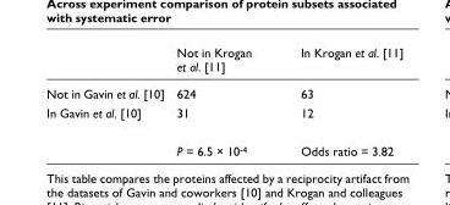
<table><thead><tr><td></td><td>Not in Krogan et al. [11]</td><td>In Krogan et al. [11]</td></tr></thead><tbody><tr><td>Not in Gavin et al. [10]</td><td>624</td><td>63</td></tr><tr><td rowspan="2">In Gavin et al. [10]</td><td>31</td><td>12</td></tr><tr><td>P = 6.5 × 10<sup>-4</sup></td><td>Odds ratio = 3.82</td></tr></tbody></table>